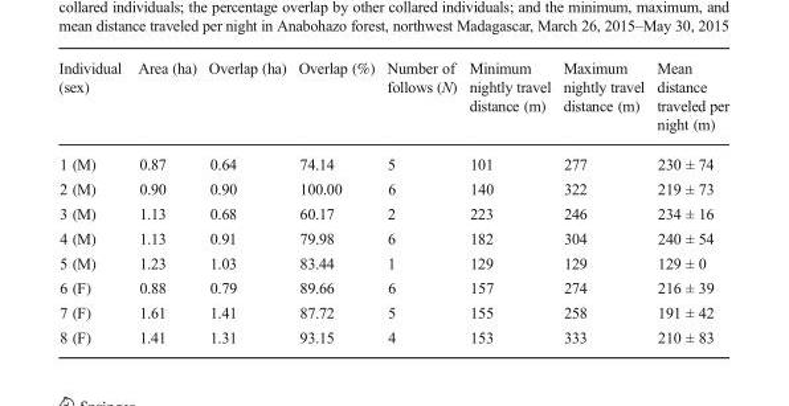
<table><thead><tr><td>Individual (sex)</td><td>Area (ha)</td><td>Overlap (ha)</td><td>Overlap (%)</td><td>Number of follows (N)</td><td>Minimum nightly travel distance (m)</td><td>Maximum nightly travel distance (m)</td><td>Mean distance traveled per night (m)</td></tr></thead><tbody><tr><td>1 (M)</td><td>0.87</td><td>0.64</td><td>74.14</td><td>5</td><td>101</td><td>277</td><td>230 ± 74</td></tr><tr><td>2 (M)</td><td>0.90</td><td>0.90</td><td>100.00</td><td>6</td><td>140</td><td>322</td><td>219 ± 73</td></tr><tr><td>3 (M)</td><td>1.13</td><td>0.68</td><td>60.17</td><td>2</td><td>223</td><td>246</td><td>234 ± 16</td></tr><tr><td>4 (M)</td><td>1.13</td><td>0.91</td><td>79.98</td><td>6</td><td>182</td><td>304</td><td>240 ± 54</td></tr><tr><td>5 (M)</td><td>1.23</td><td>1.03</td><td>83.44</td><td>1</td><td>129</td><td>129</td><td>129 ± 0</td></tr><tr><td>6 (F)</td><td>0.88</td><td>0.79</td><td>89.66</td><td>6</td><td>157</td><td>274</td><td>216 ± 39</td></tr><tr><td>7 (F)</td><td>1.61</td><td>1.41</td><td>87.72</td><td>5</td><td>155</td><td>258</td><td>191 ± 42</td></tr><tr><td>8 (F)</td><td>1.41</td><td>1.31</td><td>93.15</td><td>4</td><td>153</td><td>333</td><td>210 ± 83</td></tr></tbody></table>